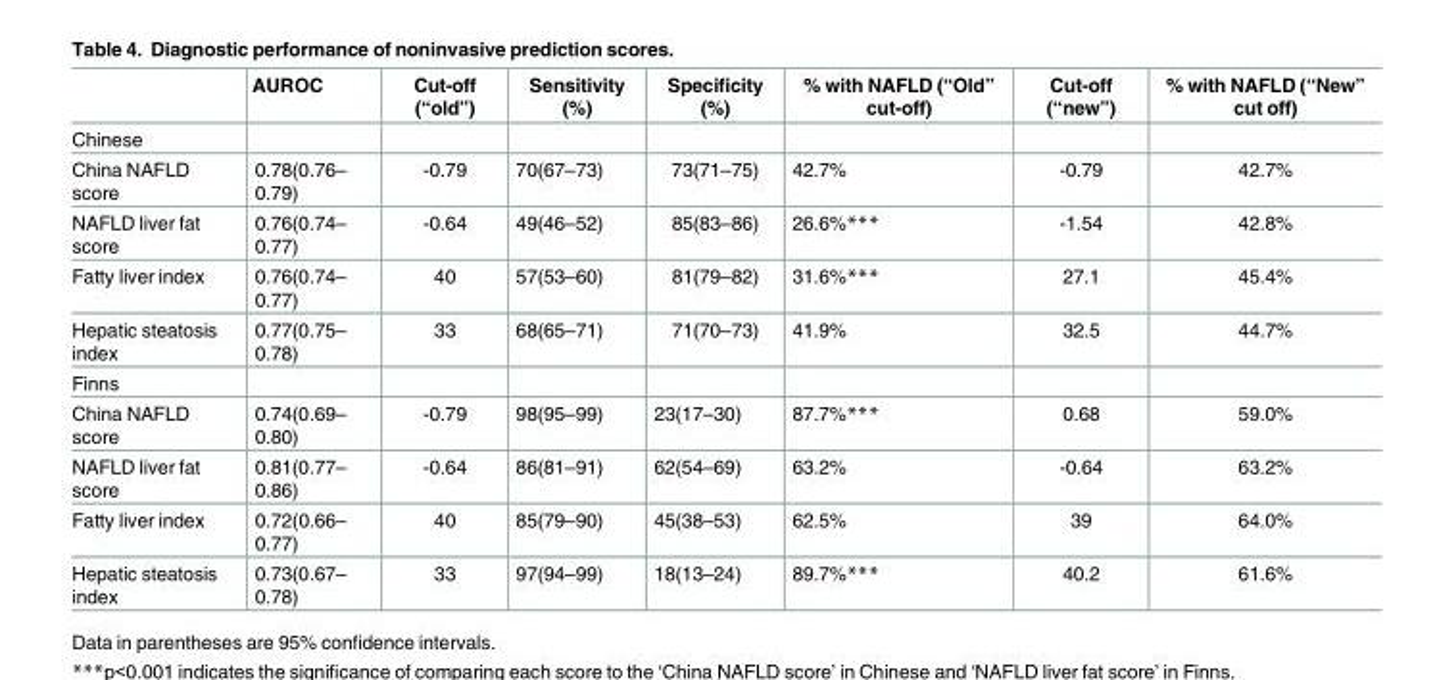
<table><thead><tr><td></td><td>AUROC</td><td>Cut-off (“old”)</td><td>Sensitivity (%)</td><td>Specificity (%)</td><td>% with NAFLD (“Old” cut-off)</td><td>Cut-off (“new”)</td><td>% with NAFLD (“New” cut off)</td></tr></thead><tbody><tr><td colspan="8">Chinese</td></tr><tr><td>China NAFLD score</td><td>0.78(0.76– 0.79)</td><td>-0.79</td><td>70(67–73)</td><td>73(71–75)</td><td>42.7%</td><td>-0.79</td><td>42.7%</td></tr><tr><td>NAFLD liver fat score</td><td>0.76(0.74– 0.77)</td><td>-0.64</td><td>49(46–52)</td><td>85(83–86)</td><td>26.6%***</td><td>-1.54</td><td>42.8%</td></tr><tr><td>Fatty liver index</td><td>0.76(0.74– 0.77)</td><td>40</td><td>57(53–60)</td><td>81(79–82)</td><td>31.6%***</td><td>27.1</td><td>45.4%</td></tr><tr><td>Hepatic steatosis index</td><td>0.77(0.75– 0.78)</td><td>33</td><td>68(65–71)</td><td>71(70–73)</td><td>41.9%</td><td>32.5</td><td>44.7%</td></tr><tr><td colspan="8">Finns</td></tr><tr><td>China NAFLD score</td><td>0.74(0.69– 0.80)</td><td>-0.79</td><td>98(95–99)</td><td>23(17–30)</td><td>87.7%***</td><td>0.68</td><td>59.0%</td></tr><tr><td>NAFLD liver fat score</td><td>0.81(0.77– 0.86)</td><td>-0.64</td><td>86(81–91)</td><td>62(54–69)</td><td>63.2%</td><td>-0.64</td><td>63.2%</td></tr><tr><td>Fatty liver index</td><td>0.72(0.66– 0.77)</td><td>40</td><td>85(79–90)</td><td>45(38–53)</td><td>62.5%</td><td>39</td><td>64.0%</td></tr><tr><td>Hepatic steatosis index</td><td>0.73(0.67– 0.78)</td><td>33</td><td>97(94–99)</td><td>18(13–24)</td><td>89.7%***</td><td>40.2</td><td>61.6%</td></tr></tbody></table>